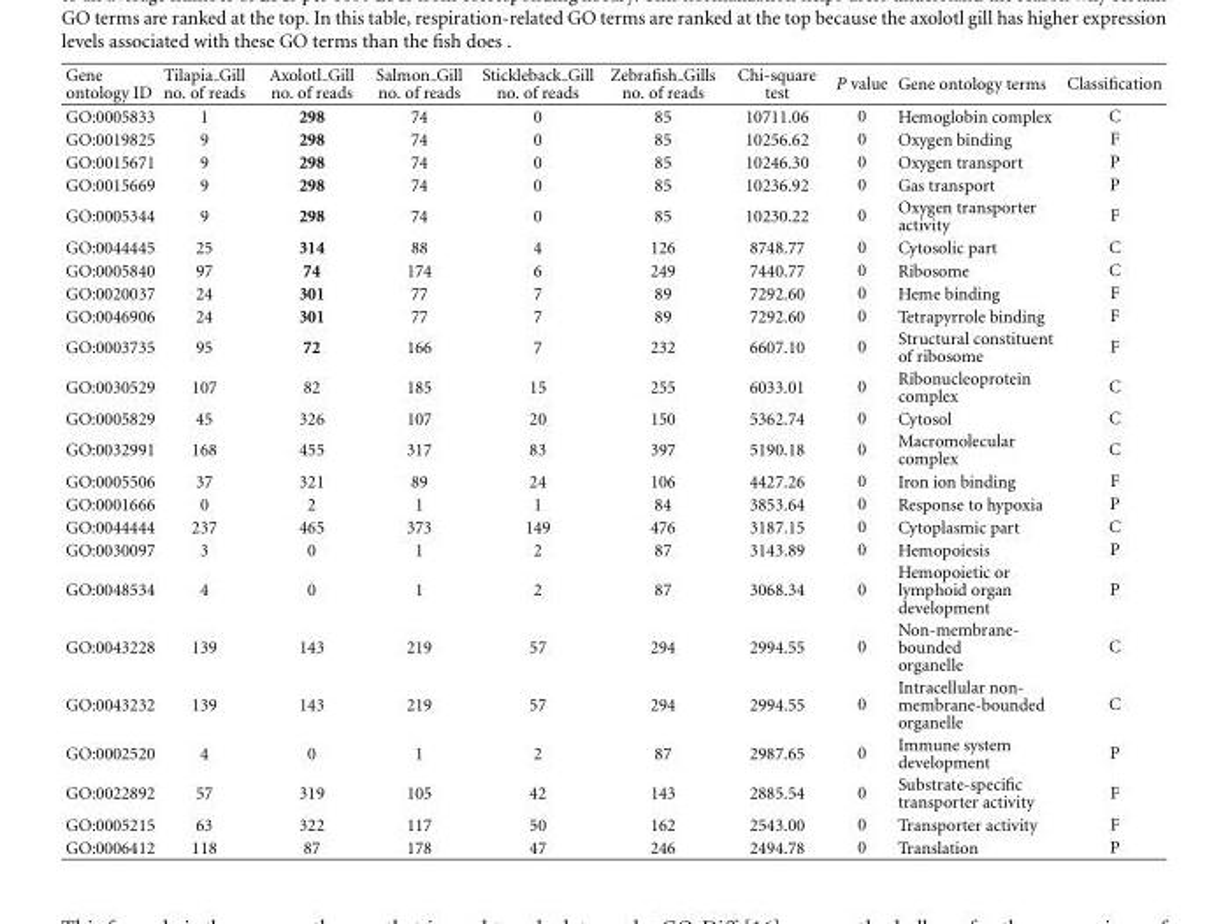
<table><thead><tr><td>Gene ontology ID</td><td>Tilapia Gill no. of reads</td><td>Axolotl Gill no. of reads</td><td>Salmon Gill no. of reads</td><td>Stickleback Gill no. of reads</td><td>Zebrafish Gills no. of reads</td><td>Chi-square test</td><td>P value</td><td>Gene ontology terms</td><td>Classification</td></tr></thead><tbody><tr><td>GO:0005833</td><td>1</td><td>298</td><td>74</td><td>0</td><td>85</td><td>10711.06</td><td>0</td><td>Hemoglobin complex</td><td>C</td></tr><tr><td>GO:0019825</td><td>9</td><td>298</td><td>74</td><td>0</td><td>85</td><td>10256.62</td><td>0</td><td>Oxygen binding</td><td>F</td></tr><tr><td>GO:0015671</td><td>9</td><td>298</td><td>74</td><td>0</td><td>85</td><td>10246.30</td><td>0</td><td>Oxygen transport</td><td>P</td></tr><tr><td>GO:0015669</td><td>9</td><td>298</td><td>74</td><td>0</td><td>85</td><td>10236.92</td><td>0</td><td>Gas transport</td><td>P</td></tr><tr><td>GO:0005344</td><td>9</td><td>298</td><td>74</td><td>0</td><td>85</td><td>10230.22</td><td>0</td><td>Oxygen transporter activity</td><td>F</td></tr><tr><td>GO:0044445</td><td>25</td><td>314</td><td>88</td><td>4</td><td>126</td><td>8748.77</td><td>0</td><td>Cytosolic part</td><td>C</td></tr><tr><td>GO:0005840</td><td>97</td><td>74</td><td>174</td><td>6</td><td>249</td><td>7440.77</td><td>0</td><td>Ribosome</td><td>C</td></tr><tr><td>GO:0020037</td><td>24</td><td>301</td><td>77</td><td>7</td><td>89</td><td>7292.60</td><td>0</td><td>Heme binding</td><td>F</td></tr><tr><td>GO:0046906</td><td>24</td><td>301</td><td>77</td><td>7</td><td>89</td><td>7292.60</td><td>0</td><td>Tetrapyrrole binding</td><td>F</td></tr><tr><td>GO:0003735</td><td>95</td><td>72</td><td>166</td><td>7</td><td>232</td><td>6607.10</td><td>0</td><td>Structural constituent of ribosome</td><td>F</td></tr><tr><td>GO:0030529</td><td>107</td><td>82</td><td>185</td><td>15</td><td>255</td><td>6033.01</td><td>0</td><td>Ribonucleoprotein complex</td><td>C</td></tr><tr><td>GO:0005829</td><td>45</td><td>326</td><td>107</td><td>20</td><td>150</td><td>5362.74</td><td>0</td><td>Cytosol</td><td>C</td></tr><tr><td>GO:0032991</td><td>168</td><td>455</td><td>317</td><td>83</td><td>397</td><td>5190.18</td><td>0</td><td>Macromolecular complex</td><td>C</td></tr><tr><td>GO:0005506</td><td>37</td><td>321</td><td>89</td><td>24</td><td>106</td><td>4427.26</td><td>0</td><td>Iron ion binding</td><td>F</td></tr><tr><td>GO:0001666</td><td>0</td><td>2</td><td>1</td><td>1</td><td>84</td><td>3853.64</td><td>0</td><td>Response to hypoxia</td><td>P</td></tr><tr><td>GO:0044444</td><td>237</td><td>465</td><td>373</td><td>149</td><td>476</td><td>3187.15</td><td>0</td><td>Cytoplasmic part</td><td>C</td></tr><tr><td>GO:0030097</td><td>3</td><td>0</td><td>1</td><td>2</td><td>87</td><td>3143.89</td><td>0</td><td>Hemopoiesis</td><td>P</td></tr><tr><td>GO:0048534</td><td>4</td><td>0</td><td>1</td><td>2</td><td>87</td><td>3068.34</td><td>0</td><td>Hemopoietic or lymphoid organ development</td><td>P</td></tr><tr><td>GO:0043228</td><td>139</td><td>143</td><td>219</td><td>57</td><td>294</td><td>2994.55</td><td>0</td><td>Non-membrane- bounded organelle</td><td>C</td></tr><tr><td>GO:0043232</td><td>139</td><td>143</td><td>219</td><td>57</td><td>294</td><td>2994.55</td><td>0</td><td>Intracellular non- membrane-bounded organelle</td><td>C</td></tr><tr><td>GO:0002520</td><td>4</td><td>0</td><td>1</td><td>2</td><td>87</td><td>2987.65</td><td>0</td><td>Immune system development</td><td>P</td></tr><tr><td>GO:0022892</td><td>57</td><td>319</td><td>105</td><td>42</td><td>143</td><td>2885.54</td><td>0</td><td>Substrate-specific transporter activity</td><td>F</td></tr><tr><td>GO:0005215</td><td>63</td><td>322</td><td>117</td><td>50</td><td>162</td><td>2543.00</td><td>0</td><td>Transporter activity</td><td>F</td></tr><tr><td>GO:0006412</td><td>118</td><td>87</td><td>178</td><td>47</td><td>246</td><td>2494.78</td><td>0</td><td>Translation</td><td>P</td></tr></tbody></table>